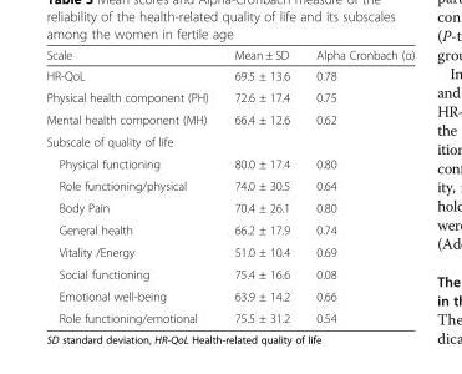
<table><thead><tr><td>Scale</td><td>Mean ± SD</td><td>Alpha Cronbach (α)</td></tr></thead><tbody><tr><td>HR-QoL</td><td>69.5 ± 13.6</td><td>0.78</td></tr><tr><td>Physical health component (PH)</td><td>72.6 ± 17.4</td><td>0.75</td></tr><tr><td>Mental health component (MH)</td><td>66.4 ± 12.6</td><td>0.62</td></tr><tr><td colspan="3">Subscale of quality of life</td></tr><tr><td>Physical functioning</td><td>80.0 ± 17.4</td><td>0.80</td></tr><tr><td>Role functioning/physical</td><td>74.0 ± 30.5</td><td>0.64</td></tr><tr><td>Body Pain</td><td>70.4 ± 26.1</td><td>0.80</td></tr><tr><td>General health</td><td>66.2 ± 17.9</td><td>0.74</td></tr><tr><td>Vitality /Energy</td><td>51.0 ± 10.4</td><td>0.69</td></tr><tr><td>Social functioning</td><td>75.4 ± 16.6</td><td>0.08</td></tr><tr><td>Emotional well-being</td><td>63.9 ± 14.2</td><td>0.66</td></tr><tr><td>Role functioning/emotional</td><td>75.5 ± 31.2</td><td>0.54</td></tr></tbody></table>